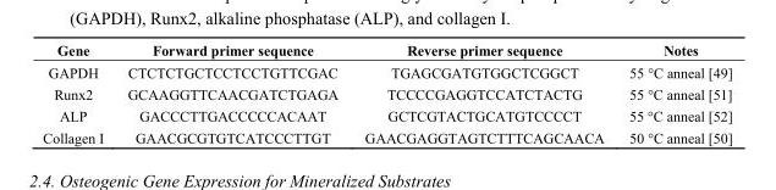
<table><thead><tr><td>Gene</td><td>Forward primer sequence</td><td>Reverse primer sequence</td><td>Notes</td></tr></thead><tbody><tr><td>GAPDH</td><td>CTCTCTGCTCCTCCTGTTCGAC</td><td>TGAGCGATGTGGCTCGGCT</td><td>55 °C anneal [49]</td></tr><tr><td>Runx2</td><td>GCAAGGTTCAACGATCTGAGA</td><td>TCCCCGAGGTCCATCTACTG</td><td>55 °C anneal [51]</td></tr><tr><td>ALP</td><td>GACCCTTGACCCCCACAAT</td><td>GCTCGTACTGCATGTCCCCT</td><td>55 °C anneal [52]</td></tr><tr><td>Collagen I</td><td>GAACGCGTGTCATCCCTTGT</td><td>GAACGAGGTAGTCTTTCAGCAACA</td><td>50 °C anneal [50]</td></tr></tbody></table>